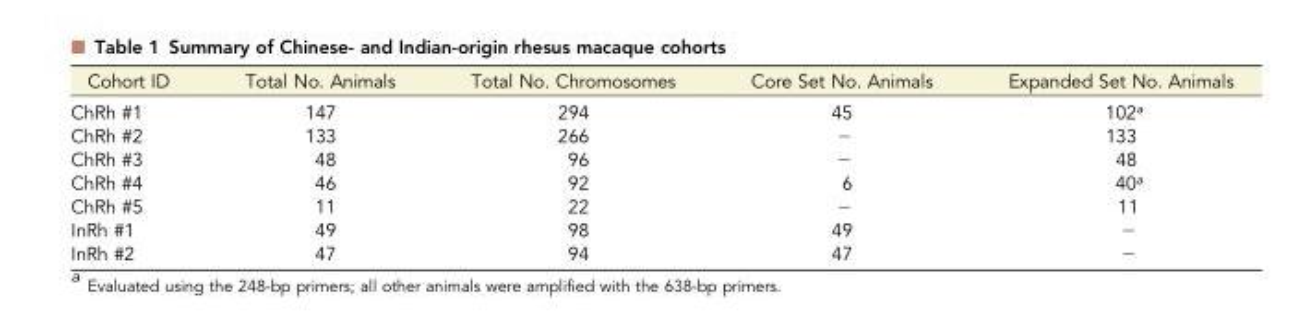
<table><thead><tr><td>Cohort ID</td><td>Total No. Animals</td><td>Total No. Chromosomes</td><td>Core Set No. Animals</td><td>Expanded Set No. Animals</td></tr></thead><tbody><tr><td>ChRh #1</td><td>147</td><td>294</td><td>45</td><td>102<sup>a</sup></td></tr><tr><td>ChRh #2</td><td>133</td><td>266</td><td>−</td><td>133</td></tr><tr><td>ChRh #3</td><td>48</td><td>96</td><td>−</td><td>48</td></tr><tr><td>ChRh #4</td><td>46</td><td>92</td><td>6</td><td>40<sup>a</sup></td></tr><tr><td>ChRh #5</td><td>11</td><td>22</td><td>−</td><td>11</td></tr><tr><td>InRh #1</td><td>49</td><td>98</td><td>49</td><td>−</td></tr><tr><td>InRh #2</td><td>47</td><td>94</td><td>47</td><td>−</td></tr></tbody></table>